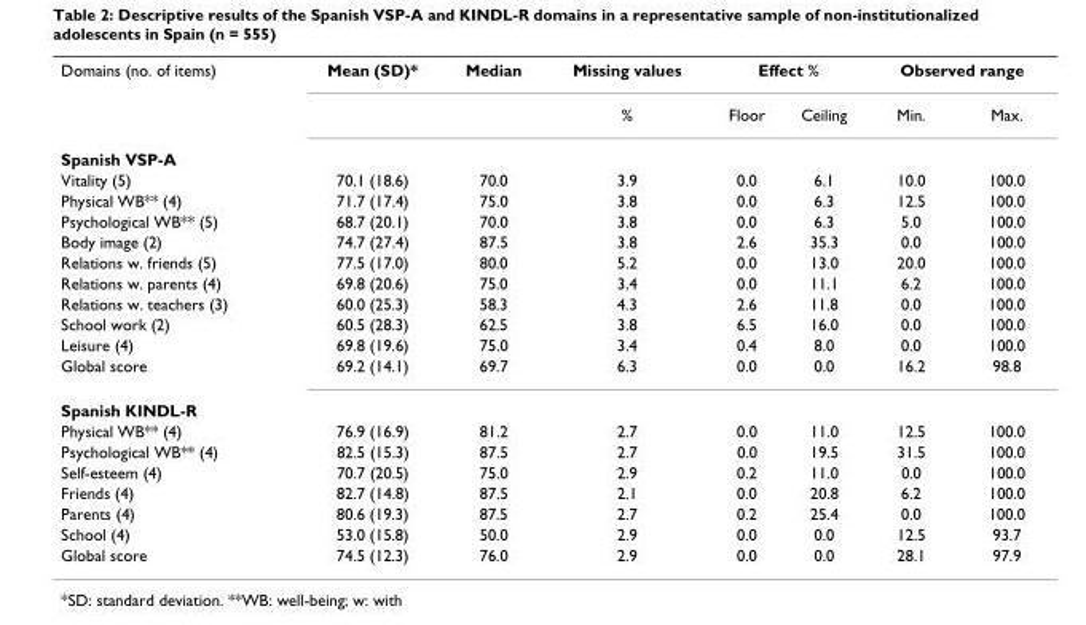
<table><tbody><tr><td rowspan="2">Domains (no. of items)</td><td>Mean (SD)*</td><td>Median</td><td>Missing values</td><td colspan="2">Effect %</td><td colspan="2">Observed range</td></tr><tr><td></td><td></td><td>%</td><td>Floor</td><td>Ceiling</td><td>Min.</td><td>Max.</td></tr><tr><td colspan="8">Spanish VSP-A</td></tr><tr><td>Vitality (5)</td><td>70.1 (18.6)</td><td>70.0</td><td>3.9</td><td>0.0</td><td>6.1</td><td>10.0</td><td>100.0</td></tr><tr><td>Physical WB** (4)</td><td>71.7 (17.4)</td><td>75.0</td><td>3.8</td><td>0.0</td><td>6.3</td><td>12.5</td><td>100.0</td></tr><tr><td>Psychological WB** (5)</td><td>68.7 (20.1)</td><td>70.0</td><td>3.8</td><td>0.0</td><td>6.3</td><td>5.0</td><td>100.0</td></tr><tr><td>Body image (2)</td><td>74.7 (27.4)</td><td>87.5</td><td>3.8</td><td>2.6</td><td>35.3</td><td>0.0</td><td>100.0</td></tr><tr><td>Relations w. friends (5)</td><td>77.5 (17.0)</td><td>80.0</td><td>5.2</td><td>0.0</td><td>13.0</td><td>20.0</td><td>100.0</td></tr><tr><td>Relations w. parents (4)</td><td>69.8 (20.6)</td><td>75.0</td><td>3.4</td><td>0.0</td><td>11.1</td><td>6.2</td><td>100.0</td></tr><tr><td>Relations w. teachers (3)</td><td>60.0 (25.3)</td><td>58.3</td><td>4.3</td><td>2.6</td><td>11.8</td><td>0.0</td><td>100.0</td></tr><tr><td>School work (2)</td><td>60.5 (28.3)</td><td>62.5</td><td>3.8</td><td>6.5</td><td>16.0</td><td>0.0</td><td>100.0</td></tr><tr><td>Leisure (4)</td><td>69.8 (19.6)</td><td>75.0</td><td>3.4</td><td>0.4</td><td>8.0</td><td>0.0</td><td>100.0</td></tr><tr><td>Global score</td><td>69.2 (14.1)</td><td>69.7</td><td>6.3</td><td>0.0</td><td>0.0</td><td>16.2</td><td>98.8</td></tr><tr><td colspan="8">Spanish KINDL-R</td></tr><tr><td>Physical WB** (4)</td><td>76.9 (16.9)</td><td>81.2</td><td>2.7</td><td>0.0</td><td>11.0</td><td>12.5</td><td>100.0</td></tr><tr><td>Psychological WB** (4)</td><td>82.5 (15.3)</td><td>87.5</td><td>2.7</td><td>0.0</td><td>19.5</td><td>31.5</td><td>100.0</td></tr><tr><td>Self-esteem (4)</td><td>70.7 (20.5)</td><td>75.0</td><td>2.9</td><td>0.2</td><td>11.0</td><td>0.0</td><td>100.0</td></tr><tr><td>Friends (4)</td><td>82.7 (14.8)</td><td>87.5</td><td>2.1</td><td>0.0</td><td>20.8</td><td>6.2</td><td>100.0</td></tr><tr><td>Parents (4)</td><td>80.6 (19.3)</td><td>87.5</td><td>2.7</td><td>0.2</td><td>25.4</td><td>0.0</td><td>100.0</td></tr><tr><td>School (4)</td><td>53.0 (15.8)</td><td>50.0</td><td>2.9</td><td>0.0</td><td>0.0</td><td>12.5</td><td>93.7</td></tr><tr><td>Global score</td><td>74.5 (12.3)</td><td>76.0</td><td>2.9</td><td>0.0</td><td>0.0</td><td>28.1</td><td>97.9</td></tr></tbody></table>